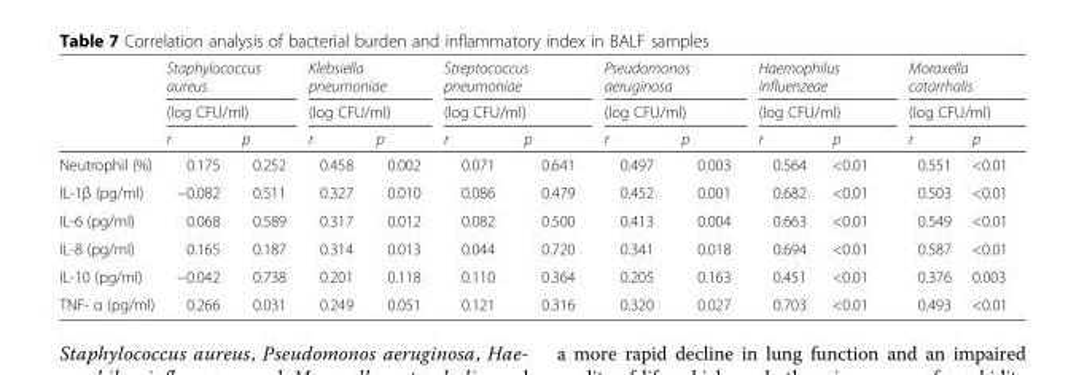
<table><thead><tr><td rowspan="3"></td><td rowspan="2" colspan="2">Staphylococcus aureus (log CFU/ml)</td><td rowspan="2" colspan="2">Klebsiella pneumoniae (log CFU/ml)</td><td rowspan="2" colspan="2">Streptococcus pneumoniae (log CFU/ml)</td><td rowspan="2" colspan="2">Pseudomonos aeruginosa (log CFU/ml)</td><td rowspan="2" colspan="2">Haemophilus influenzeae (log CFU/ml)</td><td rowspan="2" colspan="2">Moraxella catarrhalis (log CFU/ml)</td></tr><tr></tr><tr><td>r</td><td>p</td><td>r</td><td>p</td><td>r</td><td>p</td><td>r</td><td>p</td><td>r</td><td>p</td><td>r</td><td>p</td></tr></thead><tbody><tr><td>Neutrophil (%)</td><td>0.175</td><td>0.252</td><td>0.458</td><td>0.002</td><td>0.071</td><td>0.641</td><td>0.497</td><td>0.003</td><td>0.564</td><td>&lt;0.01</td><td>0.551</td><td>&lt;0.01</td></tr><tr><td>IL-1β (pg/ml)</td><td>−0.082</td><td>0.511</td><td>0.327</td><td>0.010</td><td>0.086</td><td>0.479</td><td>0.452</td><td>0.001</td><td>0.682</td><td>&lt;0.01</td><td>0.503</td><td>&lt;0.01</td></tr><tr><td>IL-6 (pg/ml)</td><td>0.068</td><td>0.589</td><td>0.317</td><td>0.012</td><td>0.082</td><td>0.500</td><td>0.413</td><td>0.004</td><td>0.663</td><td>&lt;0.01</td><td>0.549</td><td>&lt;0.01</td></tr><tr><td>IL-8 (pg/ml)</td><td>0.165</td><td>0.187</td><td>0.314</td><td>0.013</td><td>0.044</td><td>0.720</td><td>0.341</td><td>0.018</td><td>0.694</td><td>&lt;0.01</td><td>0.587</td><td>&lt;0.01</td></tr><tr><td>IL-10 (pg/ml)</td><td>−0.042</td><td>0.738</td><td>0.201</td><td>0.118</td><td>0.110</td><td>0.364</td><td>0.205</td><td>0.163</td><td>0.451</td><td>&lt;0.01</td><td>0.376</td><td>0.003</td></tr><tr><td>TNF- α (pg/ml)</td><td>0.266</td><td>0.031</td><td>0.249</td><td>0.051</td><td>0.121</td><td>0.316</td><td>0.320</td><td>0.027</td><td>0.703</td><td>&lt;0.01</td><td>0.493</td><td>&lt;0.01</td></tr></tbody></table>